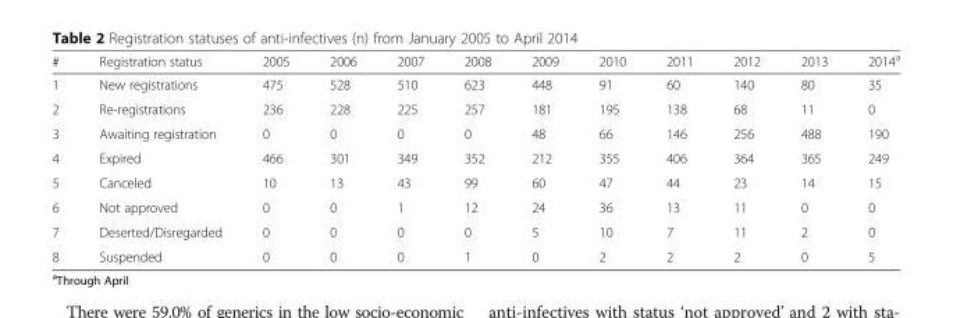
<table><thead><tr><td>#</td><td>Registration status</td><td>2005</td><td>2006</td><td>2007</td><td>2008</td><td>2009</td><td>2010</td><td>2011</td><td>2012</td><td>2013</td><td>2014<sup>a</sup></td></tr></thead><tbody><tr><td>1</td><td>New registrations</td><td>475</td><td>528</td><td>510</td><td>623</td><td>448</td><td>91</td><td>60</td><td>140</td><td>80</td><td>35</td></tr><tr><td>2</td><td>Re-registrations</td><td>236</td><td>228</td><td>225</td><td>257</td><td>181</td><td>195</td><td>138</td><td>68</td><td>11</td><td>0</td></tr><tr><td>3</td><td>Awaiting registration</td><td>0</td><td>0</td><td>0</td><td>0</td><td>48</td><td>66</td><td>146</td><td>256</td><td>488</td><td>190</td></tr><tr><td>4</td><td>Expired</td><td>466</td><td>301</td><td>349</td><td>352</td><td>212</td><td>355</td><td>406</td><td>364</td><td>365</td><td>249</td></tr><tr><td>5</td><td>Canceled</td><td>10</td><td>13</td><td>43</td><td>99</td><td>60</td><td>47</td><td>44</td><td>23</td><td>14</td><td>15</td></tr><tr><td>6</td><td>Not approved</td><td>0</td><td>0</td><td>1</td><td>12</td><td>24</td><td>36</td><td>13</td><td>11</td><td>0</td><td>0</td></tr><tr><td>7</td><td>Deserted/Disregarded</td><td>0</td><td>0</td><td>0</td><td>0</td><td>5</td><td>10</td><td>7</td><td>11</td><td>2</td><td>0</td></tr><tr><td>8</td><td>Suspended</td><td>0</td><td>0</td><td>0</td><td>1</td><td>0</td><td>2</td><td>2</td><td>2</td><td>0</td><td>5</td></tr></tbody></table>